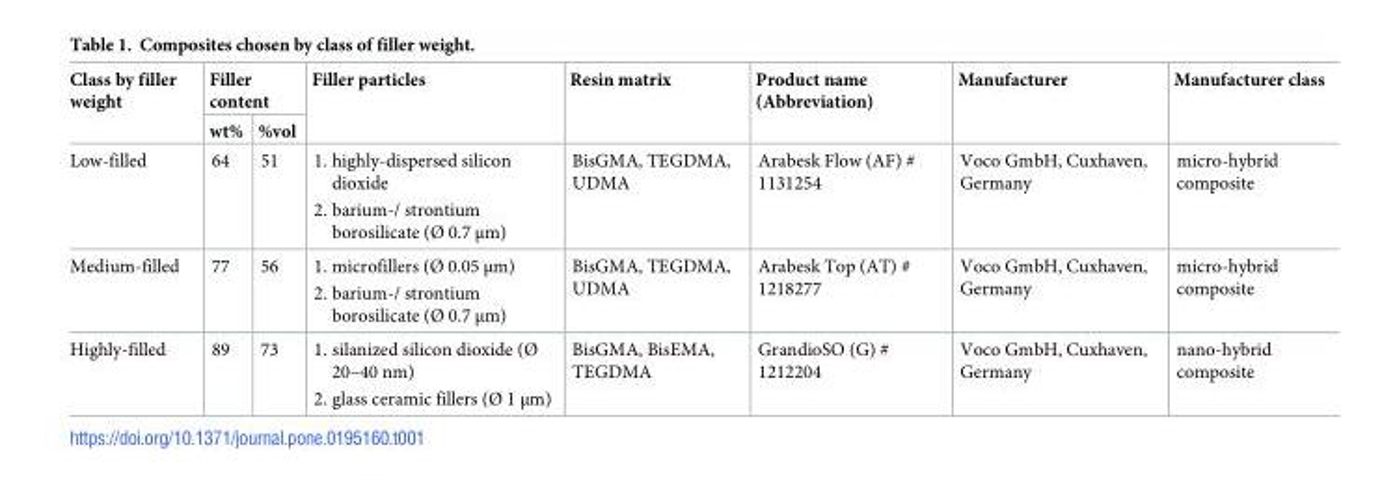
<table><thead><tr><td rowspan="2">Class by filler weight</td><td colspan="2">Filler content</td><td rowspan="2">Filler particles</td><td rowspan="2">Resin matrix</td><td rowspan="2">Product name (Abbreviation)</td><td rowspan="2">Manufacturer</td><td rowspan="2">Manufacturer class</td></tr><tr><td>wt%</td><td>%vol</td></tr></thead><tbody><tr><td>Low-filled</td><td>64</td><td>51</td><td>1. highly-dispersed silicon dioxide 2. barium-/ strontium borosilicate (Ø 0.7 μm)</td><td>BisGMA, TEGDMA, UDMA</td><td>Arabesk Flow (AF) # 1131254</td><td>Voco GmbH, Cuxhaven, Germany</td><td>micro-hybrid composite</td></tr><tr><td>Medium-filled</td><td>77</td><td>56</td><td>1. microfillers (Ø 0.05 μm) 2. barium-/ strontium borosilicate (Ø 0.7 μm)</td><td>BisGMA, TEGDMA, UDMA</td><td>Arabesk Top (AT) # 1218277</td><td>Voco GmbH, Cuxhaven, Germany</td><td>micro-hybrid composite</td></tr><tr><td>Highly-filled</td><td>89</td><td>73</td><td>1. silanized silicon dioxide (Ø 20–40 nm) 2. glass ceramic fillers (Ø 1 μm)</td><td>BisGMA, BisEMA, TEGDMA</td><td>GrandioSO (G) # 1212204</td><td>Voco GmbH, Cuxhaven, Germany</td><td>nano-hybrid composite</td></tr></tbody></table>